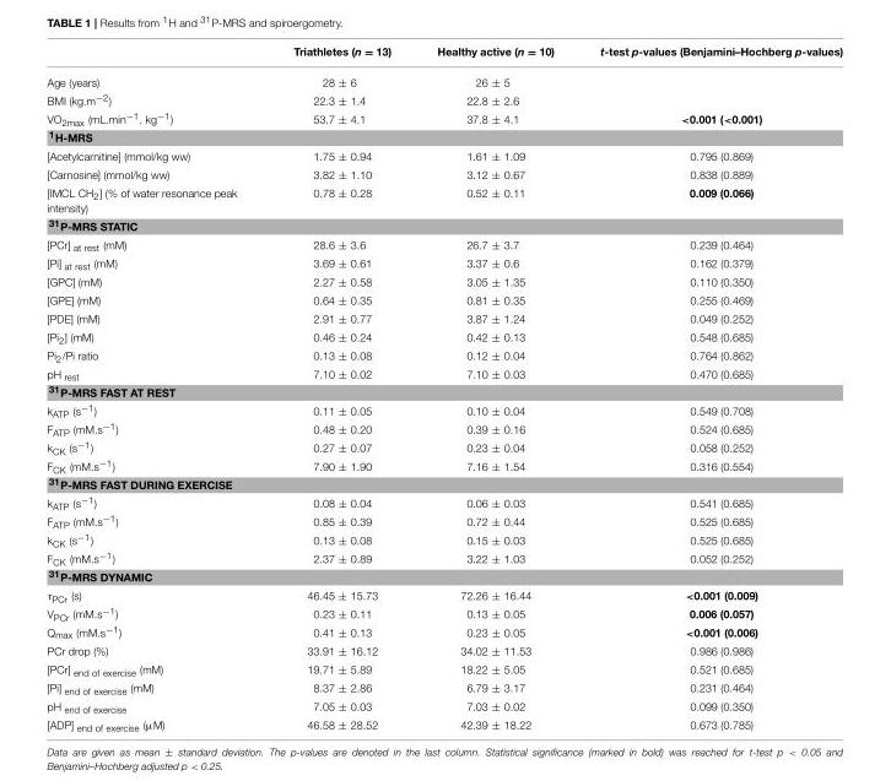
<table><thead><tr><td></td><td>Triathletes (n = 13)</td><td>Healthy active (n = 10)</td><td>t-test p-values (Benjamini–Hochberg p-values)</td></tr></thead><tbody><tr><td>Age (years)</td><td>28 ± 6</td><td>26 ± 5</td><td></td></tr><tr><td>BMI (kg.m<sup>−2</sup>)</td><td>22.3 ± 1.4</td><td>22.8 ± 2.6</td><td></td></tr><tr><td>VO<sub>2max</sub> (mL.min<sup>−1</sup>. kg<sup>−1</sup>)</td><td>53.7 ± 4.1</td><td>37.8 ± 4.1</td><td>&lt;0.001 (&lt;0.001)</td></tr><tr><td colspan="4"><sup>1</sup>H-MRS</td></tr><tr><td>[Acetylcarnitine] (mmol/kg ww)</td><td>1.75 ± 0.94</td><td>1.61 ± 1.09</td><td>0.795 (0.869)</td></tr><tr><td>[Carnosine] (mmol/kg ww)</td><td>3.82 ± 1.10</td><td>3.12 ± 0.67</td><td>0.838 (0.889)</td></tr><tr><td>[IMCL CH<sub>2</sub>] (% of water resonance peak intensity)</td><td>0.78 ± 0.28</td><td>0.52 ± 0.11</td><td>0.009 (0.066)</td></tr><tr><td colspan="4"><sup>31</sup>P-MRS STATIC</td></tr><tr><td>[PCr] <sub>at rest</sub> (mM)</td><td>28.6 ± 3.6</td><td>26.7 ± 3.7</td><td>0.239 (0.464)</td></tr><tr><td>[Pi] <sub>at rest</sub> (mM)</td><td>3.69 ± 0.61</td><td>3.37 ± 0.6</td><td>0.162 (0.379)</td></tr><tr><td>[GPC] (mM)</td><td>2.27 ± 0.58</td><td>3.05 ± 1.35</td><td>0.110 (0.350)</td></tr><tr><td>[GPE] (mM)</td><td>0.64 ± 0.35</td><td>0.81 ± 0.35</td><td>0.255 (0.469)</td></tr><tr><td>[PDE] (mM)</td><td>2.91 ± 0.77</td><td>3.87 ± 1.24</td><td>0.049 (0.252)</td></tr><tr><td>[Pi<sub>2</sub>] (mM)</td><td>0.46 ± 0.24</td><td>0.42 ± 0.13</td><td>0.548 (0.685)</td></tr><tr><td>Pi<sub>2</sub>/Pi ratio</td><td>0.13 ± 0.08</td><td>0.12 ± 0.04</td><td>0.764 (0.862)</td></tr><tr><td>pH <sub>rest</sub></td><td>7.10 ± 0.02</td><td>7.10 ± 0.03</td><td>0.470 (0.685)</td></tr><tr><td colspan="4"><sup>31</sup>P-MRS FAST AT REST</td></tr><tr><td>k<sub>ATP</sub> (s<sup>−1</sup>)</td><td>0.11 ± 0.05</td><td>0.10 ± 0.04</td><td>0.549 (0.708)</td></tr><tr><td>F<sub>ATP</sub> (mM.s<sup>−1</sup>)</td><td>0.48 ± 0.20</td><td>0.39 ± 0.16</td><td>0.524 (0.685)</td></tr><tr><td>k<sub>CK</sub> (s<sup>−1</sup>)</td><td>0.27 ± 0.07</td><td>0.23 ± 0.04</td><td>0.058 (0.252)</td></tr><tr><td>F<sub>CK</sub> (mM.s<sup>−1</sup>)</td><td>7.90 ± 1.90</td><td>7.16 ± 1.54</td><td>0.316 (0.554)</td></tr><tr><td colspan="4"><sup>31</sup>P-MRS FAST DURING EXERCISE</td></tr><tr><td>k<sub>ATP</sub> (s<sup>−1</sup>)</td><td>0.08 ± 0.04</td><td>0.06 ± 0.03</td><td>0.541 (0.685)</td></tr><tr><td>F<sub>ATP</sub> (mM.s<sup>−1</sup>)</td><td>0.85 ± 0.39</td><td>0.72 ± 0.44</td><td>0.525 (0.685)</td></tr><tr><td>k<sub>CK</sub> (s<sup>−1</sup>)</td><td>0.13 ± 0.08</td><td>0.15 ± 0.03</td><td>0.525 (0.685)</td></tr><tr><td>F<sub>CK</sub> (mM.s<sup>−1</sup>)</td><td>2.37 ± 0.89</td><td>3.22 ± 1.03</td><td>0.052 (0.252)</td></tr><tr><td colspan="4"><sup>31</sup>P-MRS DYNAMIC</td></tr><tr><td>τ<sub>PCr</sub> (s)</td><td>46.45 ± 15.73</td><td>72.26 ± 16.44</td><td>&lt;0.001 (0.009)</td></tr><tr><td>V<sub>PCr</sub> (mM.s<sup>−1</sup>)</td><td>0.23 ± 0.11</td><td>0.13 ± 0.05</td><td>0.006 (0.057)</td></tr><tr><td>Q<sub>max</sub> (mM.s<sup>−1</sup>)</td><td>0.41 ± 0.13</td><td>0.23 ± 0.05</td><td>&lt;0.001 (0.006)</td></tr><tr><td>PCr drop (%)</td><td>33.91 ± 16.12</td><td>34.02 ± 11.53</td><td>0.986 (0.986)</td></tr><tr><td>[PCr] <sub>end of exercise</sub> (mM)</td><td>19.71 ± 5.89</td><td>18.22 ± 5.05</td><td>0.521 (0.685)</td></tr><tr><td>[Pi] <sub>end of exercise</sub> (mM)</td><td>8.37 ± 2.86</td><td>6.79 ± 3.17</td><td>0.231 (0.464)</td></tr><tr><td>pH <sub>end of exercise</sub></td><td>7.05 ± 0.03</td><td>7.03 ± 0.02</td><td>0.099 (0.350)</td></tr><tr><td>[ADP] <sub>end of exercise</sub> (µM)</td><td>46.58 ± 28.52</td><td>42.39 ± 18.22</td><td>0.673 (0.785)</td></tr></tbody></table>